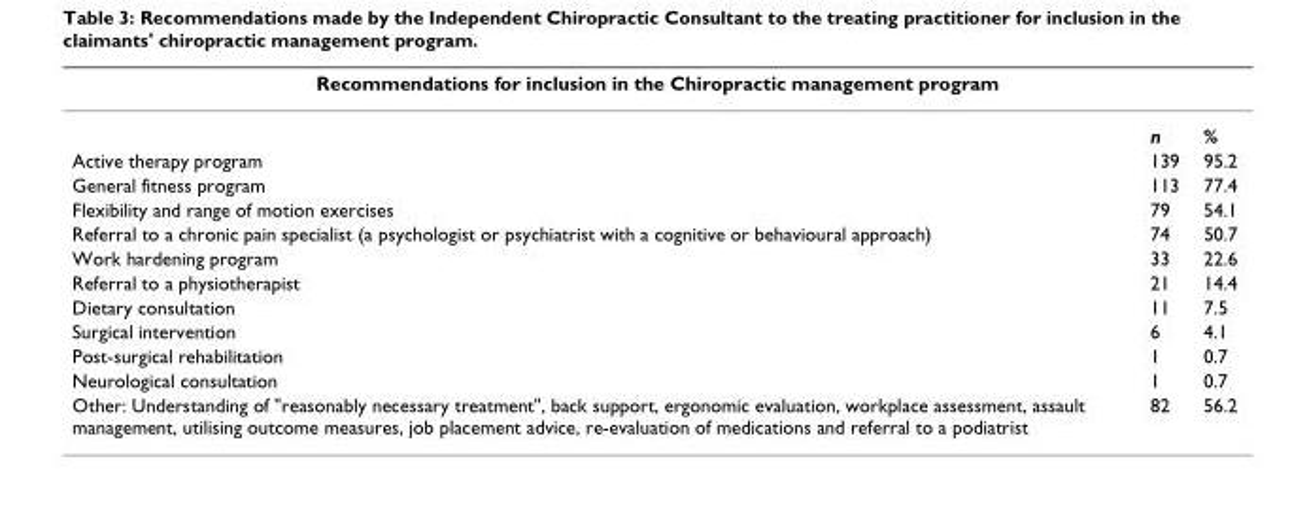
<table><thead><tr><td colspan="3">Recommendations for inclusion in the Chiropractic management program</td></tr><tr><td></td><td>n</td><td>%</td></tr></thead><tbody><tr><td>Active therapy program</td><td>139</td><td>95.2</td></tr><tr><td>General fitness program</td><td>113</td><td>77.4</td></tr><tr><td>Flexibility and range of motion exercises</td><td>79</td><td>54.1</td></tr><tr><td>Referral to a chronic pain specialist (a psychologist or psychiatrist with a cognitive or behavioural approach)</td><td>74</td><td>50.7</td></tr><tr><td>Work hardening program</td><td>33</td><td>22.6</td></tr><tr><td>Referral to a physiotherapist</td><td>21</td><td>14.4</td></tr><tr><td>Dietary consultation</td><td>11</td><td>7.5</td></tr><tr><td>Surgical intervention</td><td>6</td><td>4.1</td></tr><tr><td>Post-surgical rehabilitation</td><td>1</td><td>0.7</td></tr><tr><td>Neurological consultation</td><td>1</td><td>0.7</td></tr><tr><td>Other: Understanding of &quot;reasonably necessary treatment&quot;, back support, ergonomic evaluation, workplace assessment, assault management, utilising outcome measures, job placement advice, re-evaluation of medications and referral to a podiatrist</td><td>82</td><td>56.2</td></tr></tbody></table>